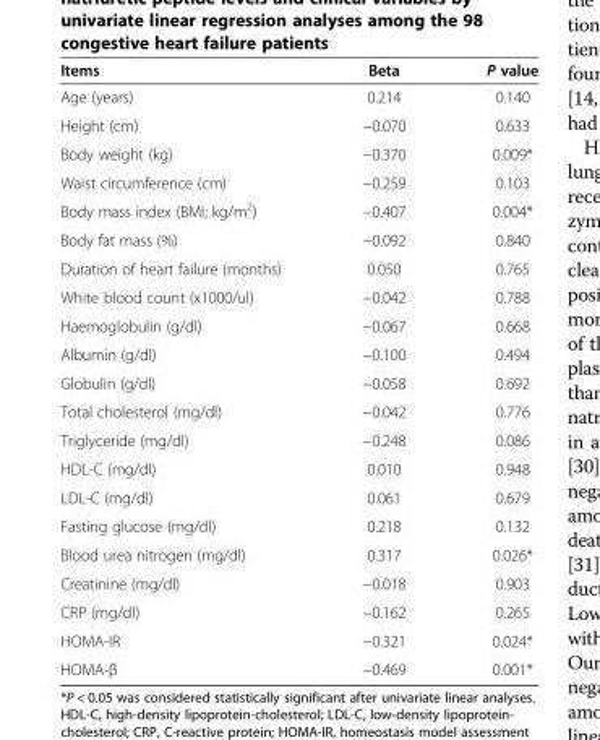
<table><thead><tr><td>Items</td><td>Beta</td><td>P value</td></tr></thead><tbody><tr><td>Age (years)</td><td>0.214</td><td>0.140</td></tr><tr><td>Height (cm)</td><td>−0.070</td><td>0.633</td></tr><tr><td>Body weight (kg)</td><td>−0.370</td><td>0.009*</td></tr><tr><td>Waist circumference (cm)</td><td>−0.259</td><td>0.103</td></tr><tr><td>Body mass index (BMI; kg/m<sup>2</sup>)</td><td>−0.407</td><td>0.004*</td></tr><tr><td>Body fat mass (%)</td><td>−0.092</td><td>0.840</td></tr><tr><td>Duration of heart failure (months)</td><td>0.050</td><td>0.765</td></tr><tr><td>White blood count (x1000/ul)</td><td>−0.042</td><td>0.788</td></tr><tr><td>Haemoglobulin (g/dl)</td><td>−0.067</td><td>0.668</td></tr><tr><td>Albumin (g/dl)</td><td>−0.100</td><td>0.494</td></tr><tr><td>Globulin (g/dl)</td><td>−0.058</td><td>0.692</td></tr><tr><td>Total cholesterol (mg/dl)</td><td>−0.042</td><td>0.776</td></tr><tr><td>Triglyceride (mg/dl)</td><td>−0.248</td><td>0.086</td></tr><tr><td>HDL-C (mg/dl)</td><td>0.010</td><td>0.948</td></tr><tr><td>LDL-C (mg/dl)</td><td>0.061</td><td>0.679</td></tr><tr><td>Fasting glucose (mg/dl)</td><td>0.218</td><td>0.132</td></tr><tr><td>Blood urea nitrogen (mg/dl)</td><td>0.317</td><td>0.026*</td></tr><tr><td>Creatinine (mg/dl)</td><td>−0.018</td><td>0.903</td></tr><tr><td>CRP (mg/dl)</td><td>−0.162</td><td>0.265</td></tr><tr><td>HOMA-IR</td><td>−0.321</td><td>0.024*</td></tr><tr><td>HOMA-β</td><td>−0.469</td><td>0.001*</td></tr></tbody></table>